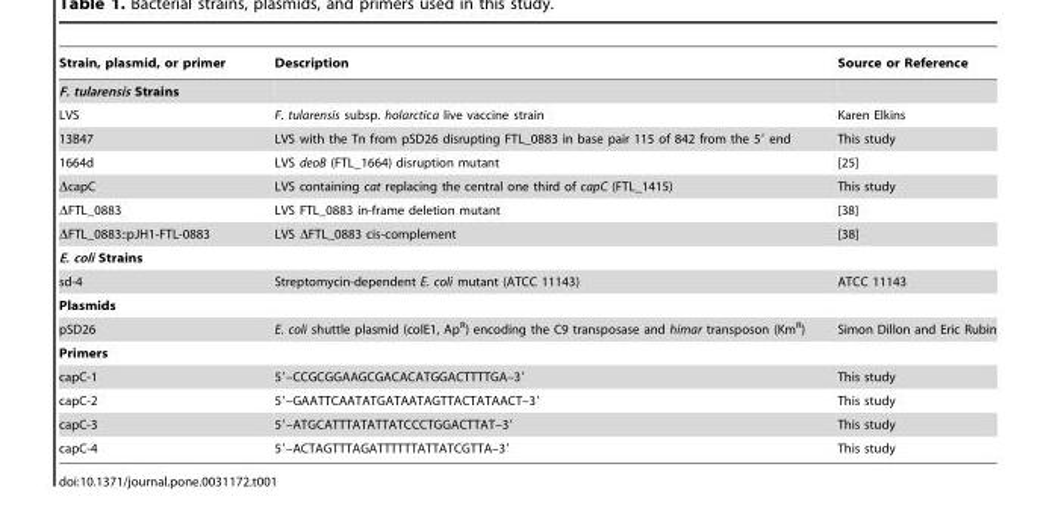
<table><thead><tr><td>Strain, plasmid, or primer</td><td>Description</td><td>Source or Reference</td></tr></thead><tbody><tr><td colspan="3">F. tularensis Strains</td></tr><tr><td>LVS</td><td>F. tularensis subsp. holarctica live vaccine strain</td><td>Karen Elkins</td></tr><tr><td>13B47</td><td>LVS with the Tn from pSD26 disrupting FTL_0883 in base pair 115 of 842 from the 5′ end</td><td>This study</td></tr><tr><td>1664d</td><td>LVS deoB (FTL_1664) disruption mutant</td><td>[25]</td></tr><tr><td>ΔcapC</td><td>LVS containing cat replacing the central one third of capC (FTL_1415)</td><td>This study</td></tr><tr><td>ΔFTL_0883</td><td>LVS FTL_0883 in-frame deletion mutant</td><td>[38]</td></tr><tr><td>ΔFTL_0883::pJH1-FTL-0883</td><td>LVS ΔFTL_0883 cis-complement</td><td>[38]</td></tr><tr><td colspan="3">E. coli Strains</td></tr><tr><td>sd-4</td><td>Streptomycin-dependent E. coli mutant (ATCC 11143)</td><td>ATCC 11143</td></tr><tr><td colspan="3">Plasmids</td></tr><tr><td>pSD26</td><td>E. coli shuttle plasmid (colE1, Ap<sup>R</sup>) encoding the C9 transposase and himar transposon (Km<sup>R</sup>)</td><td>Simon Dillon and Eric Rubin</td></tr><tr><td colspan="3">Primers</td></tr><tr><td>capC-1</td><td>5′–CCGCGGAAGCGACACATGGACTTTTGA–3′</td><td>This study</td></tr><tr><td>capC-2</td><td>5′–GAATTCAATATGATAATAGTTACTATAACT–3′</td><td>This study</td></tr><tr><td>capC-3</td><td>5′–ATGCATTTATATTATCCCTGGACTTAT–3′</td><td>This study</td></tr><tr><td>capC-4</td><td>5′–ACTAGTTTAGATTTTTTATTATCGTTA–3′</td><td>This study</td></tr></tbody></table>